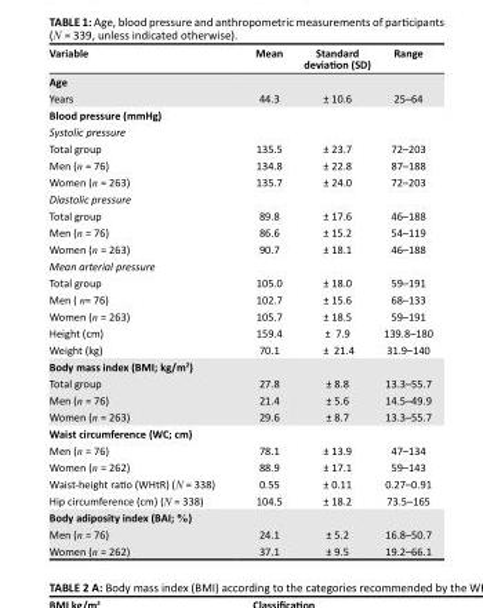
<table><thead><tr><td>Variable</td><td>Mean</td><td>Standard deviation (SD)</td><td>Range</td></tr></thead><tbody><tr><td colspan="4">Age</td></tr><tr><td>Years</td><td>44.3</td><td>± 10.6</td><td>25–64</td></tr><tr><td colspan="4">Blood pressure (mmHg)</td></tr><tr><td colspan="4">Systolic pressure</td></tr><tr><td>Total group</td><td>135.5</td><td>± 23.7</td><td>72–203</td></tr><tr><td>Men (n = 76)</td><td>134.8</td><td>± 22.8</td><td>87–188</td></tr><tr><td>Women (n = 263)</td><td>135.7</td><td>± 24.0</td><td>72–203</td></tr><tr><td colspan="4">Diastolic pressure</td></tr><tr><td>Total group</td><td>89.8</td><td>± 17.6</td><td>46–188</td></tr><tr><td>Men (n = 76)</td><td>86.6</td><td>± 15.2</td><td>54–119</td></tr><tr><td>Women (n = 263)</td><td>90.7</td><td>± 18.1</td><td>46–188</td></tr><tr><td colspan="4">Mean arterial pressure</td></tr><tr><td>Total group</td><td>105.0</td><td>± 18.0</td><td>59–191</td></tr><tr><td>Men ( n= 76)</td><td>102.7</td><td>± 15.6</td><td>68–133</td></tr><tr><td>Women (n = 263)</td><td>105.7</td><td>± 18.5</td><td>59–191</td></tr><tr><td>Height (cm)</td><td>159.4</td><td>± 7.9</td><td>139.8–180</td></tr><tr><td>Weight (kg)</td><td>70.1</td><td>± 21.4</td><td>31.9–140</td></tr><tr><td colspan="4">Body mass index (BMI; kg/m<sup>2</sup>)</td></tr><tr><td>Total group</td><td>27.8</td><td>± 8.8</td><td>13.3–55.7</td></tr><tr><td>Men (n = 76)</td><td>21.4</td><td>± 5.6</td><td>14.5–49.9</td></tr><tr><td>Women (n = 263)</td><td>29.6</td><td>± 8.7</td><td>13.3–55.7</td></tr><tr><td colspan="4">Waist circumference (WC; cm)</td></tr><tr><td>Men (n = 76)</td><td>78.1</td><td>± 13.9</td><td>47–134</td></tr><tr><td>Women (n = 262)</td><td>88.9</td><td>± 17.1</td><td>59–143</td></tr><tr><td>Waist-height ratio (WHtR) (N = 338)</td><td>0.55</td><td>± 0.11</td><td>0.27–0.91</td></tr><tr><td>Hip circumference (cm) (N = 338)</td><td>104.5</td><td>± 18.2</td><td>73.5–165</td></tr><tr><td colspan="4">Body adiposity index (BAI; %)</td></tr><tr><td>Men (n = 76)</td><td>24.1</td><td>± 5.2</td><td>16.8–50.7</td></tr><tr><td>Women (n = 262)</td><td>37.1</td><td>± 9.5</td><td>19.2–66.1</td></tr></tbody></table>